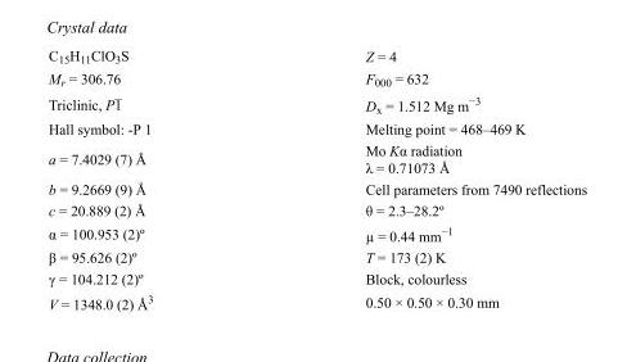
<table><tbody><tr><td>C<sub>15</sub>H<sub>11</sub>ClO<sub>3</sub>S</td><td>Z = 4</td></tr><tr><td>M<sub>r</sub> = 306.76</td><td>F<sub>000</sub> = 632</td></tr><tr><td>Triclinic, P1</td><td>D<sub>x</sub> = 1.512 Mg m<sup>−3</sup></td></tr><tr><td>Hall symbol: -P 1</td><td>Melting point = 468–469 K</td></tr><tr><td>a = 7.4029 (7) Å</td><td>Mo Kα radiation λ = 0.71073 Å</td></tr><tr><td>b = 9.2669 (9) Å</td><td>Cell parameters from 7490 reflections</td></tr><tr><td>c = 20.889 (2) Å</td><td>θ = 2.3–28.2º</td></tr><tr><td>α = 100.953 (2)º</td><td>µ = 0.44 mm<sup>−1</sup></td></tr><tr><td>β = 95.626 (2)º</td><td>T = 173 (2) K</td></tr><tr><td>γ = 104.212 (2)º</td><td>Block, colourless</td></tr><tr><td>V = 1348.0 (2) Å<sup>3</sup></td><td>0.50 × 0.50 × 0.30 mm</td></tr></tbody></table>